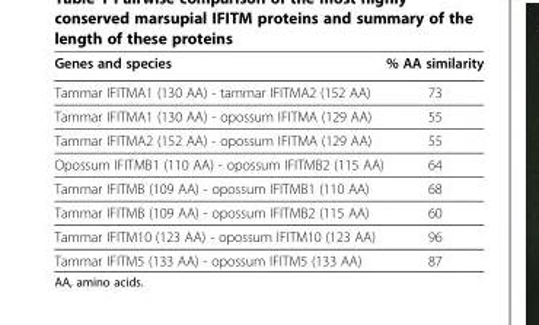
<table><thead><tr><td>Genes and species</td><td>% AA similarity</td></tr></thead><tbody><tr><td>Tammar IFITMA1 (130 AA) - tammar IFITMA2 (152 AA)</td><td>73</td></tr><tr><td>Tammar IFITMA1 (130 AA) - opossum IFITMA (129 AA)</td><td>55</td></tr><tr><td>Tammar IFITMA2 (152 AA) - opossum IFITMA (129 AA)</td><td>55</td></tr><tr><td>Opossum IFITMB1 (110 AA) - opossum IFITMB2 (115 AA)</td><td>64</td></tr><tr><td>Tammar IFITMB (109 AA) - opossum IFITMB1 (110 AA)</td><td>68</td></tr><tr><td>Tammar IFITMB (109 AA) - opossum IFITMB2 (115 AA)</td><td>60</td></tr><tr><td>Tammar IFITM10 (123 AA) - opossum IFITM10 (123 AA)</td><td>96</td></tr><tr><td>Tammar IFITM5 (133 AA) - opossum IFITM5 (133 AA)</td><td>87</td></tr></tbody></table>